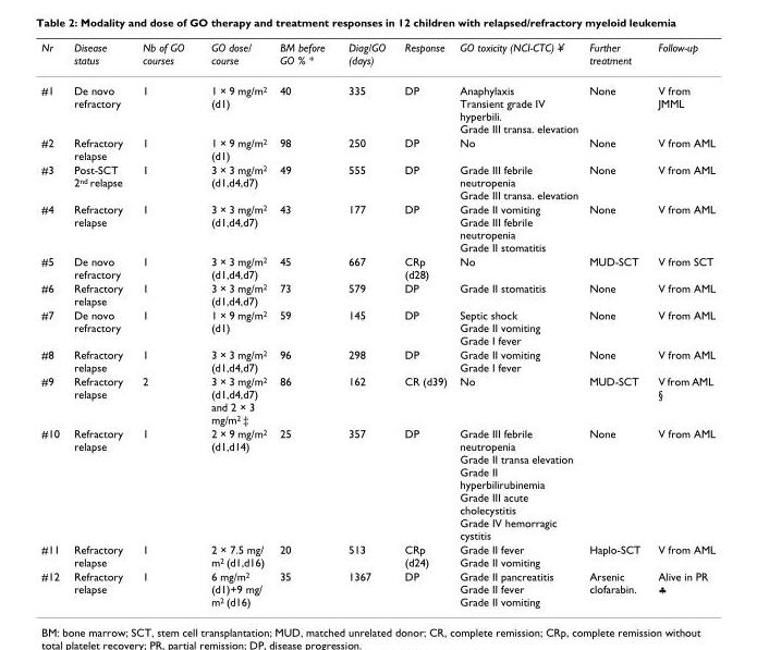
<table><thead><tr><td>Nr</td><td>Disease status</td><td>Nb of GO courses</td><td>GO dose/ course</td><td>BM before GO % *</td><td>Diag/GO (days)</td><td>Response</td><td>GO toxicity (NCI-CTC) ¥</td><td>Further treatment</td><td>Follow-up</td></tr></thead><tbody><tr><td>#1</td><td>De novo refractory</td><td>1</td><td>1 × 9 mg/m2 (d1)</td><td>40</td><td>335</td><td>DP</td><td>Anaphylaxis Transient grade IV hyperbili. Grade III transa. elevation</td><td>None</td><td>V from JMML</td></tr><tr><td>#2</td><td>Refractory relapse</td><td>1</td><td>1 × 9 mg/m2 (d1)</td><td>98</td><td>250</td><td>DP</td><td>No</td><td>None</td><td>V from AML</td></tr><tr><td>#3</td><td>Post-SCT 2nd relapse</td><td>1</td><td>3 × 3 mg/m2 (d1,d4,d7)</td><td>49</td><td>555</td><td>DP</td><td>Grade III febrile neutropenia Grade III transa. elevation</td><td>None</td><td>V from AML</td></tr><tr><td>#4</td><td>Refractory relapse</td><td>1</td><td>3 × 3 mg/m2 (d1,d4,d7)</td><td>43</td><td>177</td><td>DP</td><td>Grade II vomiting Grade III febrile neutropenia Grade II stomatitis</td><td>None</td><td>V from AML</td></tr><tr><td>#5</td><td>De novo refractory</td><td>1</td><td>3 × 3 mg/m2 (d1,d4,d7)</td><td>45</td><td>667</td><td>CRp (d28)</td><td>No</td><td>MUD-SCT</td><td>V from SCT</td></tr><tr><td>#6</td><td>Refractory relapse</td><td>1</td><td>3 × 3 mg/m2 (d1,d4,d7)</td><td>73</td><td>579</td><td>DP</td><td>Grade II stomatitis</td><td>None</td><td>V from AML</td></tr><tr><td>#7</td><td>De novo refractory</td><td>1</td><td>1 × 9 mg/m2 (d1)</td><td>59</td><td>145</td><td>DP</td><td>Septic shock Grade II vomiting Grade I fever</td><td>None</td><td>V from AML</td></tr><tr><td>#8</td><td>Refractory relapse</td><td>1</td><td>3 × 3 mg/m2 (d1,d4,d7)</td><td>96</td><td>298</td><td>DP</td><td>Grade II vomiting Grade I fever</td><td>None</td><td>V from AML</td></tr><tr><td>#9</td><td>Refractory relapse</td><td>2</td><td>3 × 3 mg/m2 (d1,d4,d7) and 2 × 3 mg/m2 ‡</td><td>86</td><td>162</td><td>CR (d39)</td><td>No</td><td>MUD-SCT</td><td>V from AML §</td></tr><tr><td>#10</td><td>Refractory relapse</td><td>1</td><td>2 × 9 mg/m2 (d1,d14)</td><td>25</td><td>357</td><td>DP</td><td>Grade III febrile neutropenia Grade II transa elevation Grade II hyperbilirubinemia Grade III acute cholecystitis Grade IV hemorragic cystitis</td><td>None</td><td>V from AML</td></tr><tr><td>#11</td><td>Refractory relapse</td><td>1</td><td>2 × 7.5 mg/ m2 (d1,d16)</td><td>20</td><td>513</td><td>CRp (d24)</td><td>Grade II fever Grade II vomiting</td><td>Haplo-SCT</td><td>V from AML</td></tr><tr><td>#12</td><td>Refractory relapse</td><td>1</td><td>6 mg/m2 (d1)+9 mg/ m2 (d16)</td><td>35</td><td>1367</td><td>DP</td><td>Grade II pancreatitis Grade II fever Grade II vomiting</td><td>Arsenic clofarabin.</td><td>Alive in PR ♣</td></tr></tbody></table>